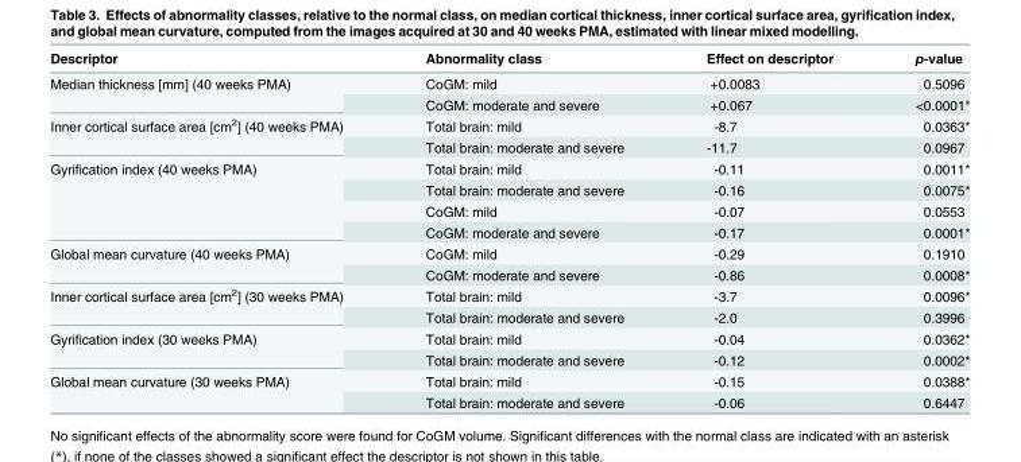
<table><thead><tr><td>Descriptor</td><td>Abnormality class</td><td>Effect on descriptor</td><td>p-value</td></tr></thead><tbody><tr><td rowspan="2">Median thickness [mm] (40 weeks PMA)</td><td>CoGM: mild</td><td>+0.0083</td><td>0.5096</td></tr><tr><td>CoGM: moderate and severe</td><td>+0.067</td><td>&lt;0.0001*</td></tr><tr><td rowspan="2">Inner cortical surface area [cm<sup>2</sup>] (40 weeks PMA)</td><td>Total brain: mild</td><td>-8.7</td><td>0.0363*</td></tr><tr><td>Total brain: moderate and severe</td><td>-11.7</td><td>0.0967</td></tr><tr><td rowspan="4">Gyrification index (40 weeks PMA)</td><td>Total brain: mild</td><td>-0.11</td><td>0.0011*</td></tr><tr><td>Total brain: moderate and severe</td><td>-0.16</td><td>0.0075*</td></tr><tr><td>CoGM: mild</td><td>-0.07</td><td>0.0553</td></tr><tr><td>CoGM: moderate and severe</td><td>-0.17</td><td>0.0001*</td></tr><tr><td rowspan="2">Global mean curvature (40 weeks PMA)</td><td>CoGM: mild</td><td>-0.29</td><td>0.1910</td></tr><tr><td>CoGM: moderate and severe</td><td>-0.86</td><td>0.0008*</td></tr><tr><td rowspan="2">Inner cortical surface area [cm<sup>2</sup>] (30 weeks PMA)</td><td>Total brain: mild</td><td>-3.7</td><td>0.0096*</td></tr><tr><td>Total brain: moderate and severe</td><td>-2.0</td><td>0.3996</td></tr><tr><td rowspan="2">Gyrification index (30 weeks PMA)</td><td>Total brain: mild</td><td>-0.04</td><td>0.0362*</td></tr><tr><td>Total brain: moderate and severe</td><td>-0.12</td><td>0.0002*</td></tr><tr><td rowspan="2">Global mean curvature (30 weeks PMA)</td><td>Total brain: mild</td><td>-0.15</td><td>0.0388*</td></tr><tr><td>Total brain: moderate and severe</td><td>-0.06</td><td>0.6447</td></tr></tbody></table>